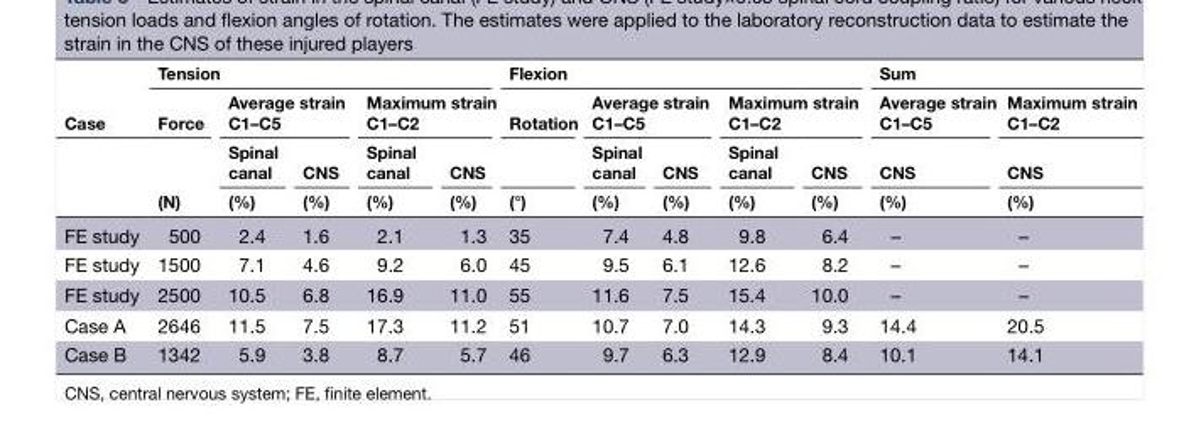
<table><thead><tr><td rowspan="4">Case</td><td colspan="5">Tension</td><td colspan="5">Flexion</td><td colspan="2">Sum</td></tr><tr><td rowspan="3">Force (N)</td><td colspan="2">Average strain C1–C5</td><td colspan="2">Maximum strain C1–C2</td><td rowspan="3">Rotation (°)</td><td colspan="2">Average strain C1–C5</td><td colspan="2">Maximum strain C1–C2</td><td rowspan="3">Average strain C1–C5 CNS (%)</td><td rowspan="3">Maximum strain C1–C2 CNS (%)</td></tr><tr><td rowspan="2">Spinal canal (%)</td><td rowspan="2">CNS (%)</td><td rowspan="2">Spinal canal (%)</td><td rowspan="2">CNS (%)</td><td rowspan="2">Spinal canal (%)</td><td rowspan="2">CNS (%)</td><td rowspan="2">Spinal canal (%)</td><td rowspan="2">CNS (%)</td></tr><tr></tr></thead><tbody><tr><td>FE study</td><td>500</td><td>2.4</td><td>1.6</td><td>2.1</td><td>1.3</td><td>35</td><td>7.4</td><td>4.8</td><td>9.8</td><td>6.4</td><td>–</td><td>–</td></tr><tr><td>FE study</td><td>1500</td><td>7.1</td><td>4.6</td><td>9.2</td><td>6.0</td><td>45</td><td>9.5</td><td>6.1</td><td>12.6</td><td>8.2</td><td>–</td><td>–</td></tr><tr><td>FE study</td><td>2500</td><td>10.5</td><td>6.8</td><td>16.9</td><td>11.0</td><td>55</td><td>11.6</td><td>7.5</td><td>15.4</td><td>10.0</td><td>–</td><td>–</td></tr><tr><td>Case A</td><td>2646</td><td>11.5</td><td>7.5</td><td>17.3</td><td>11.2</td><td>51</td><td>10.7</td><td>7.0</td><td>14.3</td><td>9.3</td><td>14.4</td><td>20.5</td></tr><tr><td>Case B</td><td>1342</td><td>5.9</td><td>3.8</td><td>8.7</td><td>5.7</td><td>46</td><td>9.7</td><td>6.3</td><td>12.9</td><td>8.4</td><td>10.1</td><td>14.1</td></tr></tbody></table>